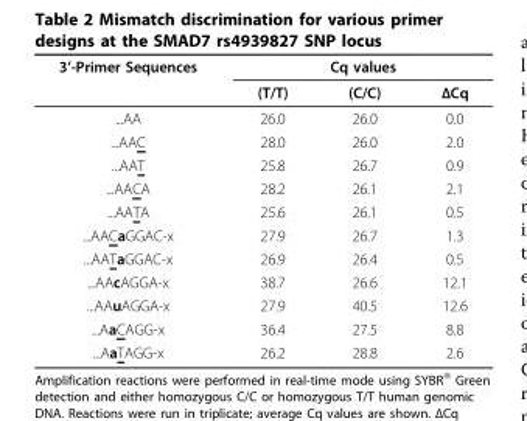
<table><thead><tr><td rowspan="2">3’-Primer Sequences</td><td colspan="3">Cq values</td></tr><tr><td>(T/T)</td><td>(C/C)</td><td>ΔCq</td></tr></thead><tbody><tr><td>...AA</td><td>26.0</td><td>26.0</td><td>0.0</td></tr><tr><td>...AAC</td><td>28.0</td><td>26.0</td><td>2.0</td></tr><tr><td>...AAT</td><td>25.8</td><td>26.7</td><td>0.9</td></tr><tr><td>...AACA</td><td>28.2</td><td>26.1</td><td>2.1</td></tr><tr><td>...AATA</td><td>25.6</td><td>26.1</td><td>0.5</td></tr><tr><td>...AACaGGAC-x</td><td>27.9</td><td>26.7</td><td>1.3</td></tr><tr><td>...AATaGGAC-x</td><td>26.9</td><td>26.4</td><td>0.5</td></tr><tr><td>...AAcAGGA-x</td><td>38.7</td><td>26.6</td><td>12.1</td></tr><tr><td>...AAuAGGA-x</td><td>27.9</td><td>40.5</td><td>12.6</td></tr><tr><td>...AaCAGG-x</td><td>36.4</td><td>27.5</td><td>8.8</td></tr><tr><td>...AaTAGG-x</td><td>26.2</td><td>28.8</td><td>2.6</td></tr></tbody></table>